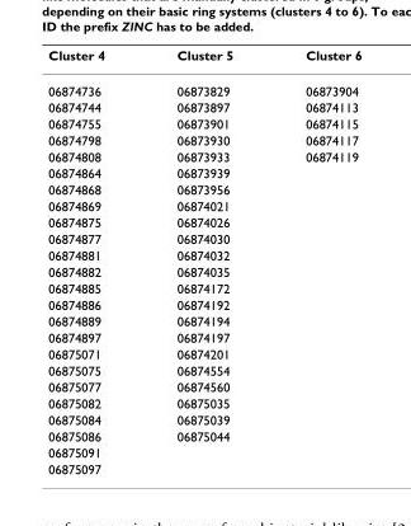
<table><thead><tr><td>Cluster 4</td><td>Cluster 5</td><td>Cluster 6</td></tr></thead><tbody><tr><td>06874736</td><td>06873829</td><td>06873904</td></tr><tr><td>06874744</td><td>06873897</td><td>06874113</td></tr><tr><td>06874755</td><td>06873901</td><td>06874115</td></tr><tr><td>06874798</td><td>06873930</td><td>06874117</td></tr><tr><td>06874808</td><td>06873933</td><td>06874119</td></tr><tr><td>06874864</td><td>06873939</td><td></td></tr><tr><td>06874868</td><td>06873956</td><td></td></tr><tr><td>06874869</td><td>06874021</td><td></td></tr><tr><td>06874875</td><td>06874026</td><td></td></tr><tr><td>06874877</td><td>06874030</td><td></td></tr><tr><td>06874881</td><td>06874032</td><td></td></tr><tr><td>06874882</td><td>06874035</td><td></td></tr><tr><td>06874885</td><td>06874172</td><td></td></tr><tr><td>06874886</td><td>06874192</td><td></td></tr><tr><td>06874889</td><td>06874194</td><td></td></tr><tr><td>06874897</td><td>06874197</td><td></td></tr><tr><td>06875071</td><td>06874201</td><td></td></tr><tr><td>06875075</td><td>06874554</td><td></td></tr><tr><td>06875077</td><td>06874560</td><td></td></tr><tr><td>06875082</td><td>06875035</td><td></td></tr><tr><td>06875084</td><td>06875039</td><td></td></tr><tr><td>06875086</td><td>06875044</td><td></td></tr><tr><td colspan="3">06875091</td></tr><tr><td>06875097</td><td></td><td></td></tr></tbody></table>